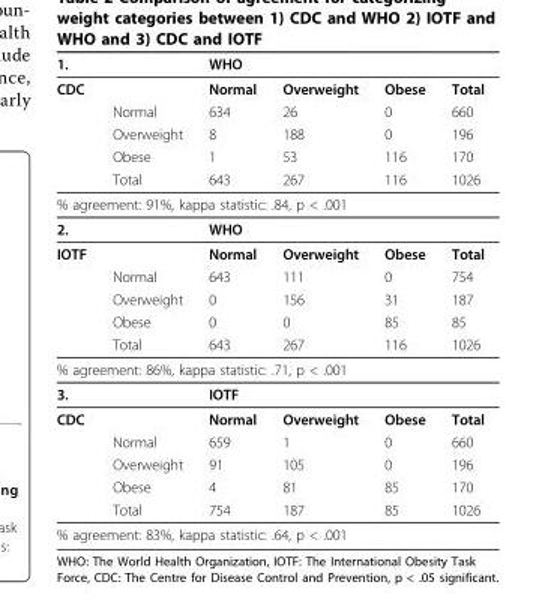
<table><thead><tr><td rowspan="2">1. CDC</td><td rowspan="2"></td><td colspan="3">WHO</td><td rowspan="2">Total</td></tr><tr><td>Normal</td><td>Overweight</td><td>Obese</td></tr></thead><tbody><tr><td></td><td>Normal</td><td>634</td><td>26</td><td>0</td><td>660</td></tr><tr><td></td><td>Overweight</td><td>8</td><td>188</td><td>0</td><td>196</td></tr><tr><td></td><td>Obese</td><td>1</td><td>53</td><td>116</td><td>170</td></tr><tr><td></td><td>Total</td><td>643</td><td>267</td><td>116</td><td>1026</td></tr><tr><td colspan="6">% agreement: 91%, kappa statistic: .84, p &lt; .001</td></tr><tr><td>2.</td><td></td><td colspan="3">WHO</td><td></td></tr><tr><td rowspan="5">IOTF</td><td></td><td>Normal</td><td>Overweight</td><td>Obese</td><td>Total</td></tr><tr><td>Normal</td><td>643</td><td>111</td><td>0</td><td>754</td></tr><tr><td>Overweight</td><td>0</td><td>156</td><td>31</td><td>187</td></tr><tr><td>Obese</td><td>0</td><td>0</td><td>85</td><td>85</td></tr><tr><td>Total</td><td>643</td><td>267</td><td>116</td><td>1026</td></tr><tr><td colspan="6">% agreement: 86%, kappa statistic: .71, p &lt; .001</td></tr><tr><td>3.</td><td></td><td colspan="3">IOTF</td><td></td></tr><tr><td rowspan="5">CDC</td><td></td><td>Normal</td><td>Overweight</td><td>Obese</td><td>Total</td></tr><tr><td>Normal</td><td>659</td><td>1</td><td>0</td><td>660</td></tr><tr><td>Overweight</td><td>91</td><td>105</td><td>0</td><td>196</td></tr><tr><td>Obese</td><td>4</td><td>81</td><td>85</td><td>170</td></tr><tr><td>Total</td><td>754</td><td>187</td><td>85</td><td>1026</td></tr><tr><td colspan="6">% agreement: 83%, kappa statistic: .64, p &lt; .001</td></tr></tbody></table>